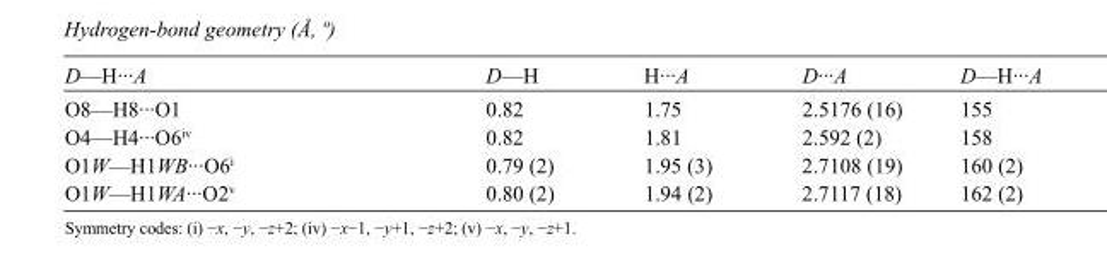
<table><tbody><tr><td>D—H···A</td><td>D—H</td><td>H···A</td><td>D···A</td><td>D—H···A</td></tr><tr><td>O8—H8···O1</td><td>0.82</td><td>1.75</td><td>2.5176 (16)</td><td>155</td></tr><tr><td>O4—H4···O6<sup>iv</sup></td><td>0.82</td><td>1.81</td><td>2.592 (2)</td><td>158</td></tr><tr><td>O1W—H1WB···O6<sup>i</sup></td><td>0.79 (2)</td><td>1.95 (3)</td><td>2.7108 (19)</td><td>160 (2)</td></tr><tr><td>O1W—H1WA···O2<sup>v</sup></td><td>0.80 (2)</td><td>1.94 (2)</td><td>2.7117 (18)</td><td>162 (2)</td></tr></tbody></table>